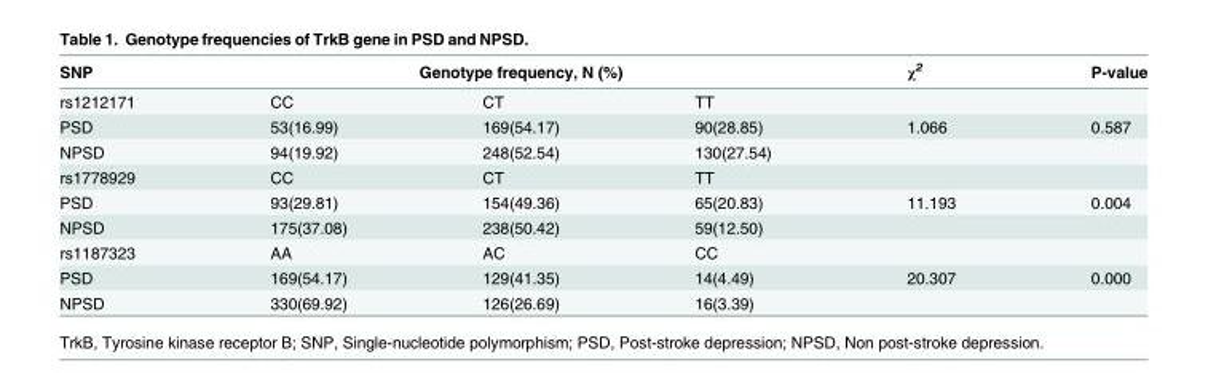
<table><thead><tr><td rowspan="2">SNP rs1212171</td><td colspan="3">Genotype frequency, N (%)</td><td rowspan="2">χ<sup>2</sup></td><td rowspan="2">P-value</td></tr><tr><td>CC</td><td>CT</td><td>TT</td></tr></thead><tbody><tr><td>PSD</td><td>53(16.99)</td><td>169(54.17)</td><td>90(28.85)</td><td>1.066</td><td>0.587</td></tr><tr><td>NPSD</td><td>94(19.92)</td><td>248(52.54)</td><td>130(27.54)</td><td></td><td></td></tr><tr><td>rs1778929</td><td>CC</td><td>CT</td><td>TT</td><td></td><td></td></tr><tr><td>PSD</td><td>93(29.81)</td><td>154(49.36)</td><td>65(20.83)</td><td>11.193</td><td>0.004</td></tr><tr><td>NPSD</td><td>175(37.08)</td><td>238(50.42)</td><td>59(12.50)</td><td></td><td></td></tr><tr><td>rs1187323</td><td>AA</td><td>AC</td><td>CC</td><td></td><td></td></tr><tr><td>PSD</td><td>169(54.17)</td><td>129(41.35)</td><td>14(4.49)</td><td>20.307</td><td>0.000</td></tr><tr><td>NPSD</td><td>330(69.92)</td><td>126(26.69)</td><td>16(3.39)</td><td></td><td></td></tr></tbody></table>